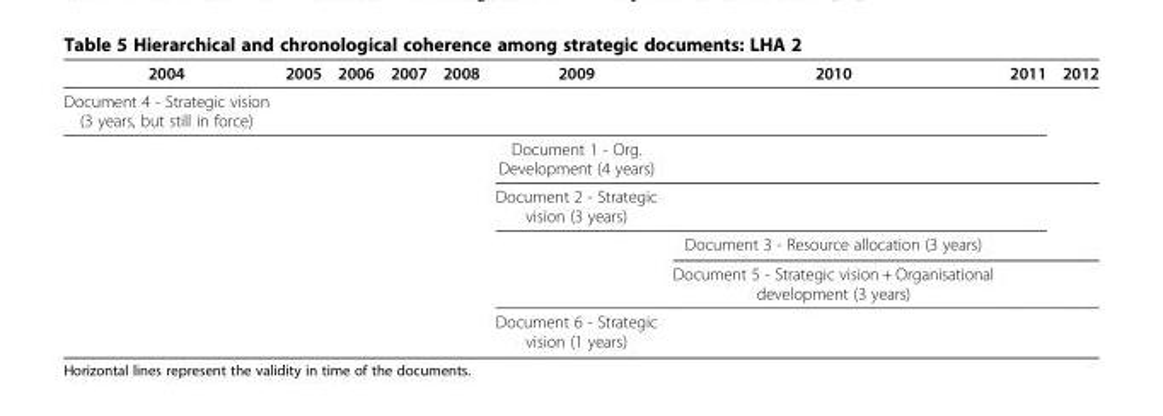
<table><thead><tr><td>2004</td><td>2005</td><td>2006</td><td>2007</td><td>2008</td><td>2009</td><td>2010</td><td>2011</td><td>2012</td></tr></thead><tbody><tr><td colspan="9">Document 4 - Strategic vision (3 years, but still in force)</td></tr><tr><td></td><td></td><td></td><td></td><td></td><td>Document 1 - Org. Development (4 years)</td><td></td><td></td><td></td></tr><tr><td></td><td></td><td></td><td></td><td></td><td>Document 2 - Strategic vision (3 years)</td><td></td><td></td><td></td></tr><tr><td></td><td></td><td></td><td></td><td></td><td></td><td>Document 3 - Resource allocation (3 years)</td><td></td><td></td></tr><tr><td></td><td></td><td></td><td></td><td></td><td></td><td>Document 5 - Strategic vision + Organisational development (3 years)</td><td></td><td></td></tr><tr><td></td><td></td><td></td><td></td><td></td><td>Document 6 - Strategic vision (1 years)</td><td></td><td></td><td></td></tr></tbody></table>